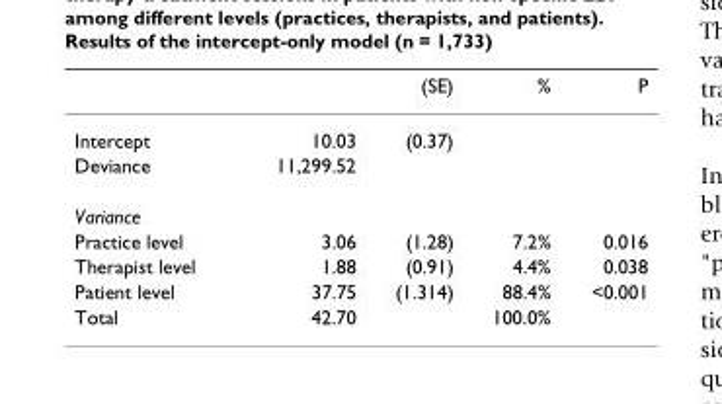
<table><thead><tr><td></td><td></td><td>(SE)</td><td>%</td><td>P</td></tr></thead><tbody><tr><td>Intercept</td><td>10.03</td><td>(0.37)</td><td></td><td></td></tr><tr><td>Deviance</td><td>11,299.52</td><td></td><td></td><td></td></tr><tr><td colspan="5">Variance</td></tr><tr><td>Practice level</td><td>3.06</td><td>(1.28)</td><td>7.2%</td><td>0.016</td></tr><tr><td>Therapist level</td><td>1.88</td><td>(0.91)</td><td>4.4%</td><td>0.038</td></tr><tr><td>Patient level</td><td>37.75</td><td>(1.314)</td><td>88.4%</td><td>&lt;0.001</td></tr><tr><td>Total</td><td>42.70</td><td></td><td>100.0%</td><td></td></tr></tbody></table>